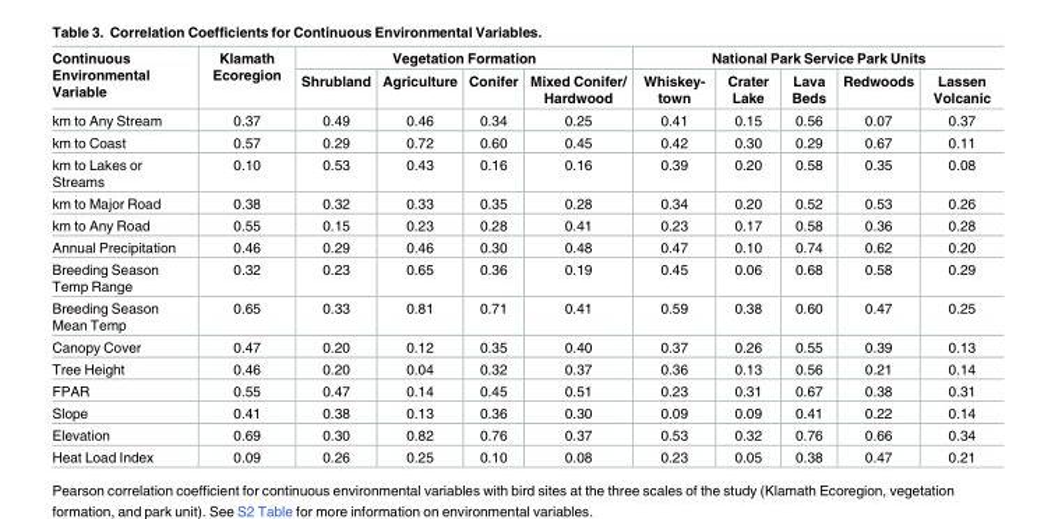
<table><thead><tr><td rowspan="2">Continuous Environmental Variable</td><td rowspan="2">Klamath Ecoregion</td><td colspan="4">Vegetation Formation</td><td colspan="5">National Park Service Park Units</td></tr><tr><td>Shrubland</td><td>Agriculture</td><td>Conifer</td><td>Mixed Conifer/ Hardwood</td><td>Whiskey- town</td><td>Crater Lake</td><td>Lava Beds</td><td>Redwoods</td><td>Lassen Volcanic</td></tr></thead><tbody><tr><td>km to Any Stream</td><td>0.37</td><td>0.49</td><td>0.46</td><td>0.34</td><td>0.25</td><td>0.41</td><td>0.15</td><td>0.56</td><td>0.07</td><td>0.37</td></tr><tr><td>km to Coast</td><td>0.57</td><td>0.29</td><td>0.72</td><td>0.60</td><td>0.45</td><td>0.42</td><td>0.30</td><td>0.29</td><td>0.67</td><td>0.11</td></tr><tr><td>km to Lakes or Streams</td><td>0.10</td><td>0.53</td><td>0.43</td><td>0.16</td><td>0.16</td><td>0.39</td><td>0.20</td><td>0.58</td><td>0.35</td><td>0.08</td></tr><tr><td>km to Major Road</td><td>0.38</td><td>0.32</td><td>0.33</td><td>0.35</td><td>0.28</td><td>0.34</td><td>0.20</td><td>0.52</td><td>0.53</td><td>0.26</td></tr><tr><td>km to Any Road</td><td>0.55</td><td>0.15</td><td>0.23</td><td>0.28</td><td>0.41</td><td>0.23</td><td>0.17</td><td>0.58</td><td>0.36</td><td>0.28</td></tr><tr><td>Annual Precipitation</td><td>0.46</td><td>0.29</td><td>0.46</td><td>0.30</td><td>0.48</td><td>0.47</td><td>0.10</td><td>0.74</td><td>0.62</td><td>0.20</td></tr><tr><td>Breeding Season Temp Range</td><td>0.32</td><td>0.23</td><td>0.65</td><td>0.36</td><td>0.19</td><td>0.45</td><td>0.06</td><td>0.68</td><td>0.58</td><td>0.29</td></tr><tr><td>Breeding Season Mean Temp</td><td>0.65</td><td>0.33</td><td>0.81</td><td>0.71</td><td>0.41</td><td>0.59</td><td>0.38</td><td>0.60</td><td>0.47</td><td>0.25</td></tr><tr><td>Canopy Cover</td><td>0.47</td><td>0.20</td><td>0.12</td><td>0.35</td><td>0.40</td><td>0.37</td><td>0.26</td><td>0.55</td><td>0.39</td><td>0.13</td></tr><tr><td>Tree Height</td><td>0.46</td><td>0.20</td><td>0.04</td><td>0.32</td><td>0.37</td><td>0.36</td><td>0.13</td><td>0.56</td><td>0.21</td><td>0.14</td></tr><tr><td>FPAR</td><td>0.55</td><td>0.47</td><td>0.14</td><td>0.45</td><td>0.51</td><td>0.23</td><td>0.31</td><td>0.67</td><td>0.38</td><td>0.31</td></tr><tr><td>Slope</td><td>0.41</td><td>0.38</td><td>0.13</td><td>0.36</td><td>0.30</td><td>0.09</td><td>0.09</td><td>0.41</td><td>0.22</td><td>0.14</td></tr><tr><td>Elevation</td><td>0.69</td><td>0.30</td><td>0.82</td><td>0.76</td><td>0.37</td><td>0.53</td><td>0.32</td><td>0.76</td><td>0.66</td><td>0.34</td></tr><tr><td>Heat Load Index</td><td>0.09</td><td>0.26</td><td>0.25</td><td>0.10</td><td>0.08</td><td>0.23</td><td>0.05</td><td>0.38</td><td>0.47</td><td>0.21</td></tr></tbody></table>